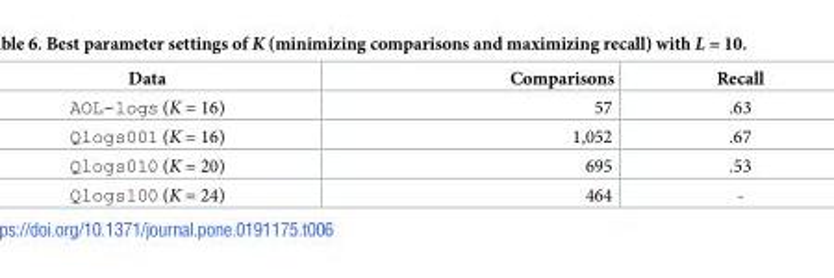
<table><thead><tr><td>Data</td><td>Comparisons</td><td>Recall</td></tr></thead><tbody><tr><td>AOL-logs (K = 16)</td><td>57</td><td>.63</td></tr><tr><td>Qlogs001 (K = 16)</td><td>1,052</td><td>.67</td></tr><tr><td>Qlogs010 (K = 20)</td><td>695</td><td>.53</td></tr><tr><td>Qlogs100 (K = 24)</td><td>464</td><td>-</td></tr></tbody></table>